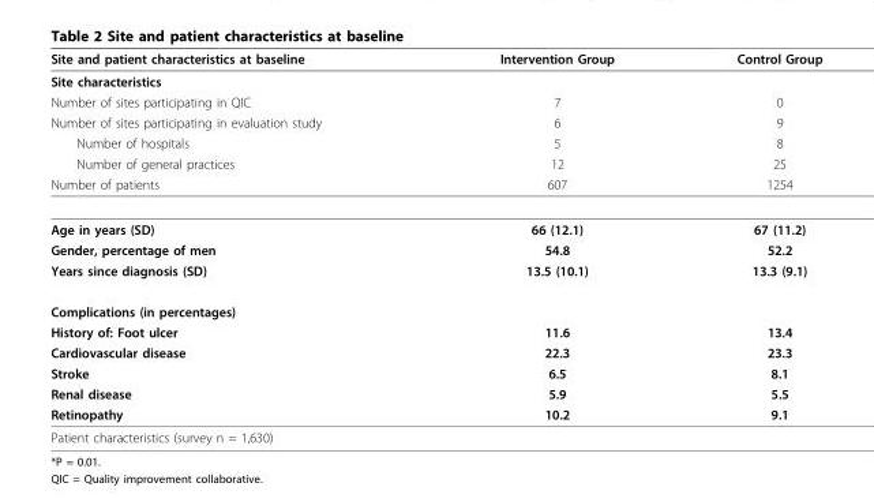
<table><thead><tr><td>Site and patient characteristics at baseline</td><td>Intervention Group</td><td>Control Group</td></tr></thead><tbody><tr><td colspan="3">Site characteristics</td></tr><tr><td>Number of sites participating in QIC</td><td>7</td><td>0</td></tr><tr><td>Number of sites participating in evaluation study</td><td>6</td><td>9</td></tr><tr><td>Number of hospitals</td><td>5</td><td>8</td></tr><tr><td>Number of general practices</td><td>12</td><td>25</td></tr><tr><td>Number of patients</td><td>607</td><td>1254</td></tr><tr><td>Age in years (SD)</td><td>66 (12.1)</td><td>67 (11.2)</td></tr><tr><td>Gender, percentage of men</td><td>54.8</td><td>52.2</td></tr><tr><td>Years since diagnosis (SD)</td><td>13.5 (10.1)</td><td>13.3 (9.1)</td></tr><tr><td colspan="3">Complications (in percentages)</td></tr><tr><td>History of: Foot ulcer</td><td>11.6</td><td>13.4</td></tr><tr><td>Cardiovascular disease</td><td>22.3</td><td>23.3</td></tr><tr><td>Stroke</td><td>6.5</td><td>8.1</td></tr><tr><td>Renal disease</td><td>5.9</td><td>5.5</td></tr><tr><td>Retinopathy</td><td>10.2</td><td>9.1</td></tr><tr><td>Patient characteristics (survey n = 1,630)</td><td></td><td></td></tr></tbody></table>